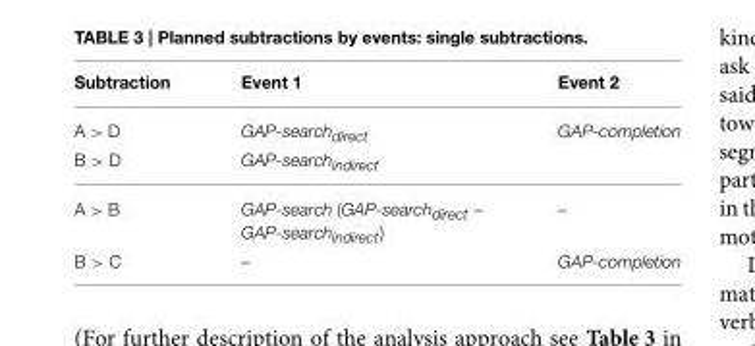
<table><thead><tr><td>Subtraction</td><td>Event 1</td><td>Event 2</td></tr></thead><tbody><tr><td>A &gt; D</td><td>GAP-search<sub>direct</sub></td><td>GAP-completion</td></tr><tr><td>B &gt; D</td><td>GAP-search<sub>indirect</sub></td><td></td></tr><tr><td>A &gt; B</td><td>GAP-search (GAP-search<sub>direct</sub> – GAP-search<sub>indirect</sub>)</td><td>–</td></tr><tr><td>B &gt; C</td><td>–</td><td>GAP-completion</td></tr></tbody></table>